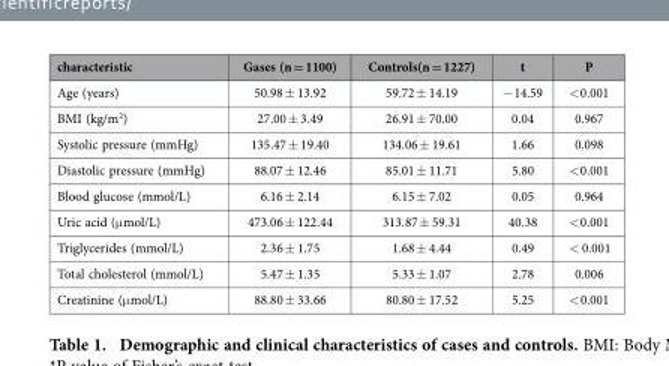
<table><thead><tr><td>characteristic</td><td>Gases (n = 1100)</td><td>Controls(n = 1227)</td><td>t</td><td>P</td></tr></thead><tbody><tr><td>Age (years)</td><td>50.98 ± 13.92</td><td>59.72 ± 14.19</td><td>− 14.59</td><td>&lt; 0.001</td></tr><tr><td>BMI (kg/m<sup>2</sup>)</td><td>27.00 ± 3.49</td><td>26.91 ± 70.00</td><td>0.04</td><td>0.967</td></tr><tr><td>Systolic pressure (mmHg)</td><td>135.47 ± 19.40</td><td>134.06 ± 19.61</td><td>1.66</td><td>0.098</td></tr><tr><td>Diastolic pressure (mmHg)</td><td>88.07 ± 12.46</td><td>85.01 ± 11.71</td><td>5.80</td><td>&lt; 0.001</td></tr><tr><td>Blood glucose (mmol/L)</td><td>6.16 ± 2.14</td><td>6.15 ± 7.02</td><td>0.05</td><td>0.964</td></tr><tr><td>Uric acid (μ mol/L)</td><td>473.06 ± 122.44</td><td>313.87 ± 59.31</td><td>40.38</td><td>&lt; 0.001</td></tr><tr><td>Triglycerides (mmol/L)</td><td>2.36 ± 1.75</td><td>1.68 ± 4.44</td><td>0.49</td><td>&lt; 0.001</td></tr><tr><td>Total cholesterol (mmol/L)</td><td>5.47 ± 1.35</td><td>5.33 ± 1.07</td><td>2.78</td><td>0.006</td></tr><tr><td>Creatinine (μ mol/L)</td><td>88.80 ± 33.66</td><td>80.80 ± 17.52</td><td>5.25</td><td>&lt; 0.001</td></tr></tbody></table>